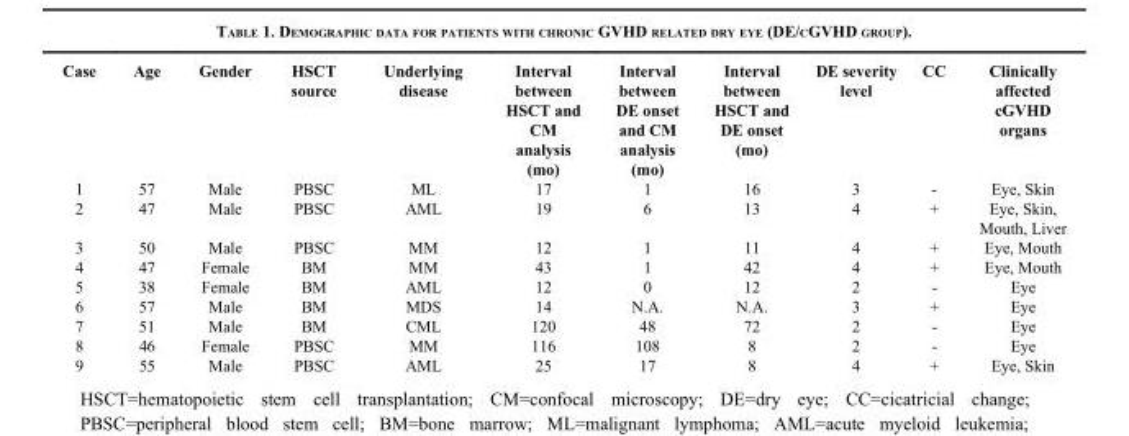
<table><thead><tr><td>Case</td><td>Age</td><td>Gender</td><td>HSCT source</td><td>Underlying disease</td><td>Interval between HSCT and CM analysis (mo)</td><td>Interval between DE onset and CM analysis (mo)</td><td>Interval between HSCT and DE onset (mo)</td><td>DE severity level</td><td>CC</td><td>Clinically affected cGVHD organs</td></tr></thead><tbody><tr><td>1</td><td>57</td><td>Male</td><td>PBSC</td><td>ML</td><td>17</td><td>1</td><td>16</td><td>3</td><td>-</td><td>Eye, Skin</td></tr><tr><td>2</td><td>47</td><td>Male</td><td>PBSC</td><td>AML</td><td>19</td><td>6</td><td>13</td><td>4</td><td>+</td><td>Eye, Skin, Mouth, Liver</td></tr><tr><td>3</td><td>50</td><td>Male</td><td>PBSC</td><td>MM</td><td>12</td><td>1</td><td>11</td><td>4</td><td>+</td><td>Eye, Mouth</td></tr><tr><td>4</td><td>47</td><td>Female</td><td>BM</td><td>MM</td><td>43</td><td>1</td><td>42</td><td>4</td><td>+</td><td>Eye, Mouth</td></tr><tr><td>5</td><td>38</td><td>Female</td><td>BM</td><td>AML</td><td>12</td><td>0</td><td>12</td><td>2</td><td>-</td><td>Eye</td></tr><tr><td>6</td><td>57</td><td>Male</td><td>BM</td><td>MDS</td><td>14</td><td>N.A.</td><td>N.A.</td><td>3</td><td>+</td><td>Eye</td></tr><tr><td>7</td><td>51</td><td>Male</td><td>BM</td><td>CML</td><td>120</td><td>48</td><td>72</td><td>2</td><td>-</td><td>Eye</td></tr><tr><td>8</td><td>46</td><td>Female</td><td>PBSC</td><td>MM</td><td>116</td><td>108</td><td>8</td><td>2</td><td>-</td><td>Eye</td></tr><tr><td>9</td><td>55</td><td>Male</td><td>PBSC</td><td>AML</td><td>25</td><td>17</td><td>8</td><td>4</td><td>+</td><td>Eye, Skin</td></tr></tbody></table>